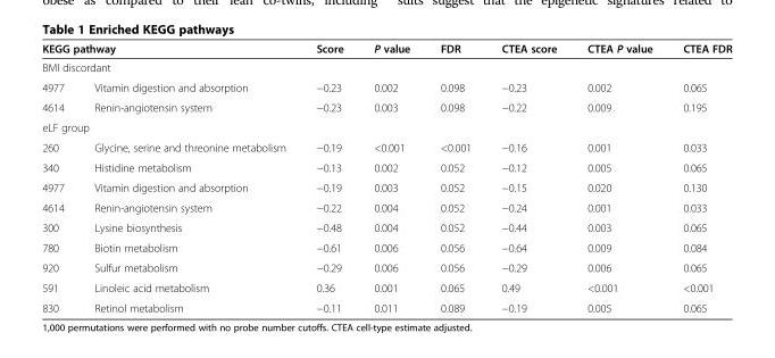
<table><thead><tr><td rowspan="2" colspan="2">KEGG pathway BMI discordant</td><td rowspan="3">Score −0.23</td><td rowspan="3">P value 0.002</td><td rowspan="3">FDR 0.098</td><td rowspan="3">CTEA score −0.23</td><td rowspan="3">CTEA P value 0.002</td><td rowspan="3">CTEA FDR 0.065</td></tr><tr></tr><tr><td>4977</td><td>Vitamin digestion and absorption</td></tr></thead><tbody><tr><td>4614</td><td>Renin-angiotensin system</td><td>−0.23</td><td>0.003</td><td>0.098</td><td>−0.22</td><td>0.009</td><td>0.195</td></tr><tr><td colspan="8">eLF group</td></tr><tr><td>260</td><td>Glycine, serine and threonine metabolism</td><td>−0.19</td><td>&lt;0.001</td><td>&lt;0.001</td><td>−0.16</td><td>0.001</td><td>0.033</td></tr><tr><td>340</td><td>Histidine metabolism</td><td>−0.13</td><td>0.002</td><td>0.052</td><td>−0.12</td><td>0.005</td><td>0.065</td></tr><tr><td>4977</td><td>Vitamin digestion and absorption</td><td>−0.19</td><td>0.003</td><td>0.052</td><td>−0.15</td><td>0.020</td><td>0.130</td></tr><tr><td>4614</td><td>Renin-angiotensin system</td><td>−0.22</td><td>0.004</td><td>0.052</td><td>−0.24</td><td>0.001</td><td>0.033</td></tr><tr><td>300</td><td>Lysine biosynthesis</td><td>−0.48</td><td>0.004</td><td>0.052</td><td>−0.44</td><td>0.003</td><td>0.065</td></tr><tr><td>780</td><td>Biotin metabolism</td><td>−0.61</td><td>0.006</td><td>0.056</td><td>−0.64</td><td>0.009</td><td>0.084</td></tr><tr><td>920</td><td>Sulfur metabolism</td><td>−0.29</td><td>0.006</td><td>0.056</td><td>−0.29</td><td>0.006</td><td>0.065</td></tr><tr><td>591</td><td>Linoleic acid metabolism</td><td>0.36</td><td>0.001</td><td>0.065</td><td>0.49</td><td>&lt;0.001</td><td>&lt;0.001</td></tr><tr><td>830</td><td>Retinol metabolism</td><td>−0.11</td><td>0.011</td><td>0.089</td><td>−0.19</td><td>0.005</td><td>0.065</td></tr></tbody></table>